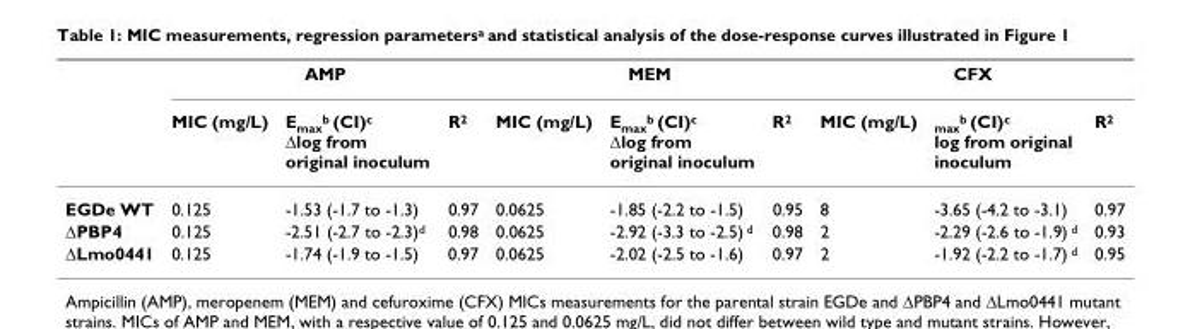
<table><thead><tr><td rowspan="2"></td><td colspan="3">AMP</td><td colspan="3">MEM</td><td colspan="3">CFX</td></tr><tr><td>MIC (mg/L)</td><td>E<sub>max</sub><sup>b</sup> (CI)<sup>c</sup> Δlog from original inoculum</td><td>R<sup>2</sup></td><td>MIC (mg/L)</td><td>E<sub>max</sub><sup>b</sup> (CI)<sup>c</sup> Δlog from original inoculum</td><td>R<sup>2</sup></td><td>MIC (mg/L)</td><td><sub>max</sub><sup>b</sup> (CI)<sup>c</sup> log from original inoculum</td><td>R<sup>2</sup></td></tr></thead><tbody><tr><td>EGDe WT</td><td>0.125</td><td>-1.53 (-1.7 to -1.3)</td><td>0.97</td><td>0.0625</td><td>-1.85 (-2.2 to -1.5)</td><td>0.95</td><td>8</td><td>-3.65 (-4.2 to -3.1)</td><td>0.97</td></tr><tr><td>ΔPBP4</td><td>0.125</td><td>-2.51 (-2.7 to -2.3)<sup>d</sup></td><td>0.98</td><td>0.0625</td><td>-2.92 (-3.3 to -2.5) <sup>d</sup></td><td>0.98</td><td>2</td><td>-2.29 (-2.6 to -1.9) <sup>d</sup></td><td>0.93</td></tr><tr><td>ΔLmo0441</td><td>0.125</td><td>-1.74 (-1.9 to -1.5)</td><td>0.97</td><td>0.0625</td><td>-2.02 (-2.5 to -1.6)</td><td>0.97</td><td>2</td><td>-1.92 (-2.2 to -1.7) <sup>d</sup></td><td>0.95</td></tr></tbody></table>